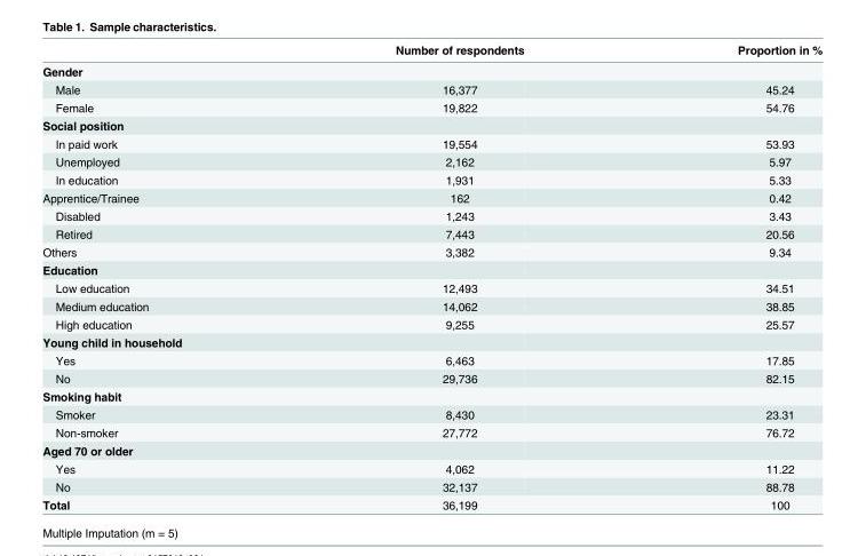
<table><thead><tr><td></td><td>Number of respondents</td><td>Proportion in %</td></tr></thead><tbody><tr><td colspan="3">Gender</td></tr><tr><td>Male</td><td>16,377</td><td>45.24</td></tr><tr><td>Female</td><td>19,822</td><td>54.76</td></tr><tr><td colspan="3">Social position</td></tr><tr><td>In paid work</td><td>19,554</td><td>53.93</td></tr><tr><td>Unemployed</td><td>2,162</td><td>5.97</td></tr><tr><td>In education</td><td>1,931</td><td>5.33</td></tr><tr><td>Apprentice/Trainee</td><td>162</td><td>0.42</td></tr><tr><td>Disabled</td><td>1,243</td><td>3.43</td></tr><tr><td>Retired</td><td>7,443</td><td>20.56</td></tr><tr><td>Others</td><td>3,382</td><td>9.34</td></tr><tr><td colspan="3">Education</td></tr><tr><td>Low education</td><td>12,493</td><td>34.51</td></tr><tr><td>Medium education</td><td>14,062</td><td>38.85</td></tr><tr><td>High education</td><td>9,255</td><td>25.57</td></tr><tr><td colspan="3">Young child in household</td></tr><tr><td>Yes</td><td>6,463</td><td>17.85</td></tr><tr><td>No</td><td>29,736</td><td>82.15</td></tr><tr><td colspan="3">Smoking habit</td></tr><tr><td>Smoker</td><td>8,430</td><td>23.31</td></tr><tr><td>Non-smoker</td><td>27,772</td><td>76.72</td></tr><tr><td colspan="3">Aged 70 or older</td></tr><tr><td>Yes</td><td>4,062</td><td>11.22</td></tr><tr><td>No</td><td>32,137</td><td>88.78</td></tr><tr><td>Total</td><td>36,199</td><td>100</td></tr></tbody></table>